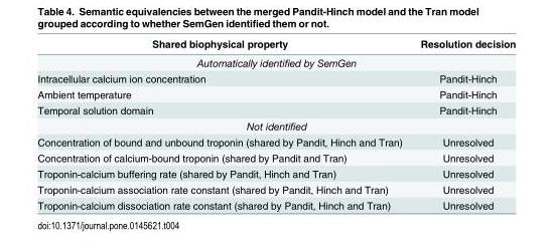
<table><thead><tr><td>Shared biophysical property</td><td>Resolution decision</td></tr></thead><tbody><tr><td colspan="2">Automatically identified by SemGen</td></tr><tr><td>Intracellular calcium ion concentration</td><td>Pandit-Hinch</td></tr><tr><td>Ambient temperature</td><td>Pandit-Hinch</td></tr><tr><td>Temporal solution domain</td><td>Pandit-Hinch</td></tr><tr><td colspan="2">Not identified</td></tr><tr><td>Concentration of bound and unbound troponin (shared by Pandit, Hinch and Tran)</td><td>Unresolved</td></tr><tr><td>Concentration of calcium-bound troponin (shared by Pandit and Tran)</td><td>Unresolved</td></tr><tr><td>Troponin-calcium buffering rate (shared by Pandit, Hinch and Tran)</td><td>Unresolved</td></tr><tr><td>Troponin-calcium association rate constant (shared by Pandit, Hinch and Tran)</td><td>Unresolved</td></tr><tr><td>Troponin-calcium dissociation rate constant (shared by Pandit, Hinch and Tran)</td><td>Unresolved</td></tr></tbody></table>